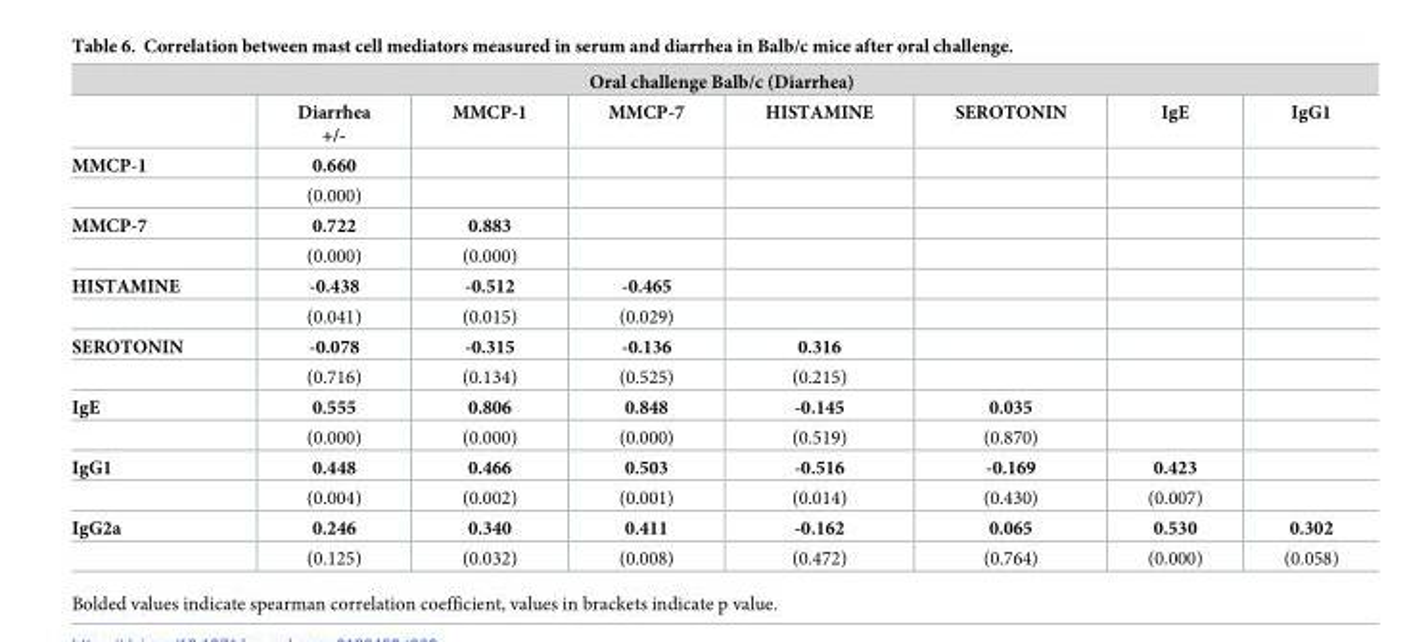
<table><thead><tr><td colspan="8">Oral challenge Balb/c (Diarrhea)</td></tr><tr><td></td><td>Diarrhea +/-</td><td>MMCP-1</td><td>MMCP-7</td><td>HISTAMINE</td><td>SEROTONIN</td><td>IgE</td><td>IgG1</td></tr></thead><tbody><tr><td rowspan="2">MMCP-1</td><td>0.660</td><td></td><td></td><td></td><td></td><td></td><td></td></tr><tr><td>(0.000)</td><td></td><td></td><td></td><td></td><td></td><td></td></tr><tr><td rowspan="2">MMCP-7</td><td>0.722</td><td>0.883</td><td></td><td></td><td></td><td></td><td></td></tr><tr><td>(0.000)</td><td>(0.000)</td><td></td><td></td><td></td><td></td><td></td></tr><tr><td rowspan="2">HISTAMINE</td><td>-0.438</td><td>-0.512</td><td>-0.465</td><td></td><td></td><td></td><td></td></tr><tr><td>(0.041)</td><td>(0.015)</td><td>(0.029)</td><td></td><td></td><td></td><td></td></tr><tr><td rowspan="2">SEROTONIN</td><td>-0.078</td><td>-0.315</td><td>-0.136</td><td>0.316</td><td></td><td></td><td></td></tr><tr><td>(0.716)</td><td>(0.134)</td><td>(0.525)</td><td>(0.215)</td><td></td><td></td><td></td></tr><tr><td rowspan="2">IgE</td><td>0.555</td><td>0.806</td><td>0.848</td><td>-0.145</td><td>0.035</td><td></td><td></td></tr><tr><td>(0.000)</td><td>(0.000)</td><td>(0.000)</td><td>(0.519)</td><td>(0.870)</td><td></td><td></td></tr><tr><td rowspan="2">IgG1</td><td>0.448</td><td>0.466</td><td>0.503</td><td>-0.516</td><td>-0.169</td><td>0.423</td><td></td></tr><tr><td>(0.004)</td><td>(0.002)</td><td>(0.001)</td><td>(0.014)</td><td>(0.430)</td><td>(0.007)</td><td></td></tr><tr><td rowspan="2">IgG2a</td><td>0.246</td><td>0.340</td><td>0.411</td><td>-0.162</td><td>0.065</td><td>0.530</td><td>0.302</td></tr><tr><td>(0.125)</td><td>(0.032)</td><td>(0.008)</td><td>(0.472)</td><td>(0.764)</td><td>(0.000)</td><td>(0.058)</td></tr></tbody></table>